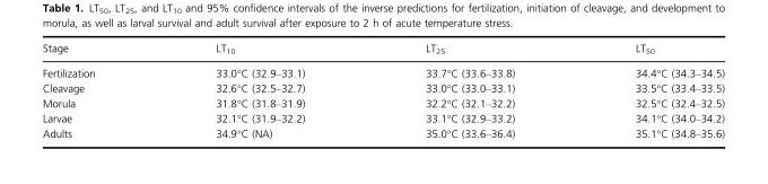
<table><thead><tr><td>Stage</td><td>LT<sub>10</sub></td><td>LT<sub>25</sub></td><td>LT<sub>50</sub></td></tr></thead><tbody><tr><td>Fertilization</td><td>33.0°C (32.9–33.1)</td><td>33.7°C (33.6–33.8)</td><td>34.4°C (34.3–34.5)</td></tr><tr><td>Cleavage</td><td>32.6°C (32.5–32.7)</td><td>33.0°C (33.0–33.1)</td><td>33.5°C (33.4–33.5)</td></tr><tr><td>Morula</td><td>31.8°C (31.8–31.9)</td><td>32.2°C (32.1–32.2)</td><td>32.5°C (32.4–32.5)</td></tr><tr><td>Larvae</td><td>32.1°C (31.9–32.2)</td><td>33.1°C (32.9–33.2)</td><td>34.1°C (34.0–34.2)</td></tr><tr><td>Adults</td><td>34.9°C (NA)</td><td>35.0°C (33.6–36.4)</td><td>35.1°C (34.8–35.6)</td></tr></tbody></table>